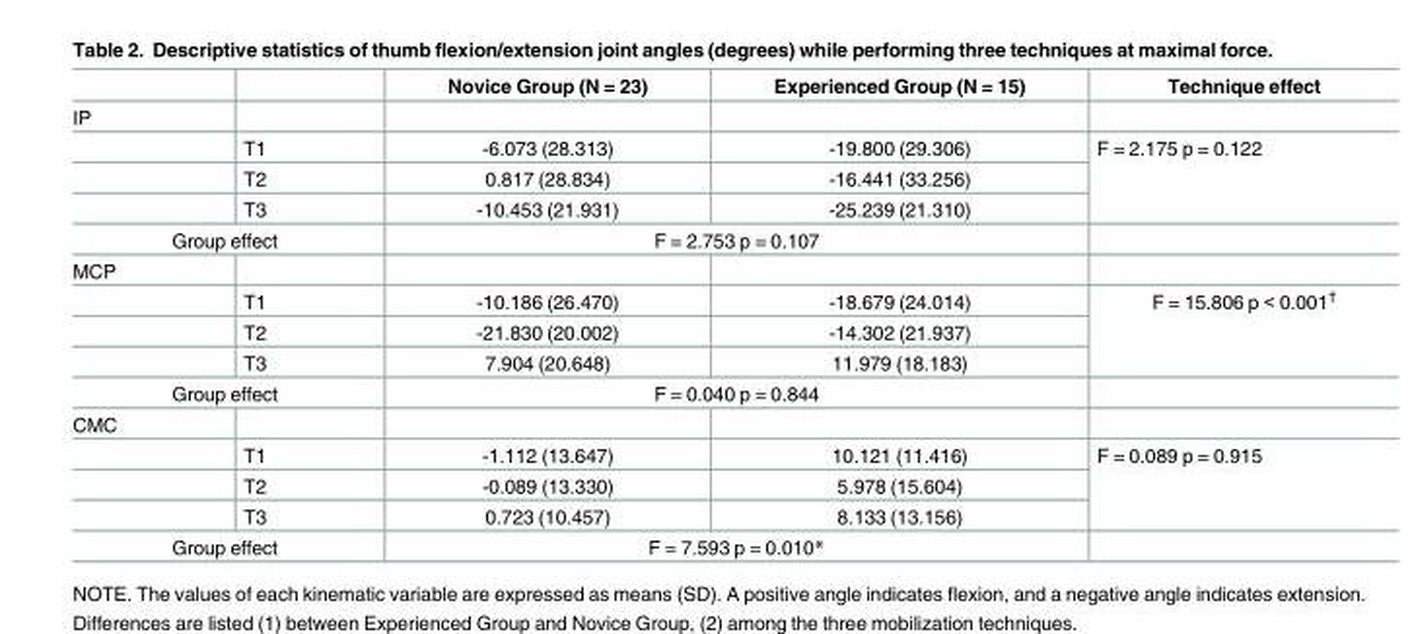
<table><thead><tr><td></td><td></td><td>Novice Group (N = 23)</td><td>Experienced Group (N = 15)</td><td>Technique effect</td></tr></thead><tbody><tr><td colspan="5">IP</td></tr><tr><td></td><td>T1</td><td>-6.073 (28.313)</td><td>-19.800 (29.306)</td><td rowspan="3">F = 2.175 p = 0.122</td></tr><tr><td></td><td>T2</td><td>0.817 (28.834)</td><td>-16.441 (33.256)</td></tr><tr><td></td><td>T3</td><td>-10.453 (21.931)</td><td>-25.239 (21.310)</td></tr><tr><td colspan="2">Group effect</td><td colspan="2">F = 2.753 p = 0.107</td><td></td></tr><tr><td colspan="5">MCP</td></tr><tr><td></td><td>T1</td><td>-10.186 (26.470)</td><td>-18.679 (24.014)</td><td rowspan="3">F = 15.806 p &lt; 0.001<sup>†</sup></td></tr><tr><td></td><td>T2</td><td>-21.830 (20.002)</td><td>-14.302 (21.937)</td></tr><tr><td></td><td>T3</td><td>7.904 (20.648)</td><td>11.979 (18.183)</td></tr><tr><td colspan="2">Group effect</td><td colspan="2">F = 0.040 p = 0.844</td><td></td></tr><tr><td colspan="5">CMC</td></tr><tr><td></td><td>T1</td><td>-1.112 (13.647)</td><td>10.121 (11.416)</td><td rowspan="3">F = 0.089 p = 0.915</td></tr><tr><td></td><td>T2</td><td>-0.089 (13.330)</td><td>5.978 (15.604)</td></tr><tr><td></td><td>T3</td><td>0.723 (10.457)</td><td>8.133 (13.156)</td></tr><tr><td colspan="2">Group effect</td><td colspan="2">F = 7.593 p = 0.010*</td><td></td></tr></tbody></table>